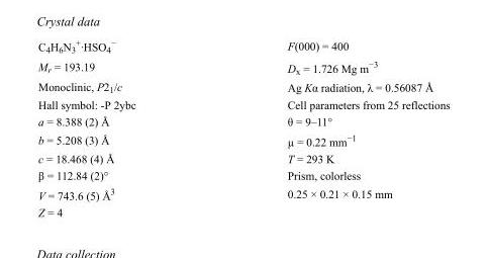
<table><tbody><tr><td>C<sub>4</sub>H<sub>6</sub>N<sub>3</sub> <sup>+</sup>·HSO<sub>4</sub> <sup>−</sup></td><td>F(000) = 400</td></tr><tr><td>M<sub>r</sub> = 193.19</td><td>D<sub>x</sub> = 1.726 Mg m<sup>−3</sup></td></tr><tr><td>Monoclinic, P2<sub>1</sub>/c</td><td>Ag Kα radiation, λ = 0.56087 Å</td></tr><tr><td>Hall symbol: -P 2ybc</td><td>Cell parameters from 25 reflections</td></tr><tr><td>a = 8.388 (2) Å</td><td>θ = 9–11°</td></tr><tr><td>b = 5.208 (3) Å</td><td>µ = 0.22 mm<sup>−1</sup></td></tr><tr><td>c = 18.468 (4) Å</td><td>T = 293 K</td></tr><tr><td>β = 112.84 (2)°</td><td>Prism, colorless</td></tr><tr><td>V = 743.6 (5) Å<sup>3</sup></td><td>0.25 × 0.21 × 0.15 mm</td></tr><tr><td>Z = 4</td><td></td></tr></tbody></table>